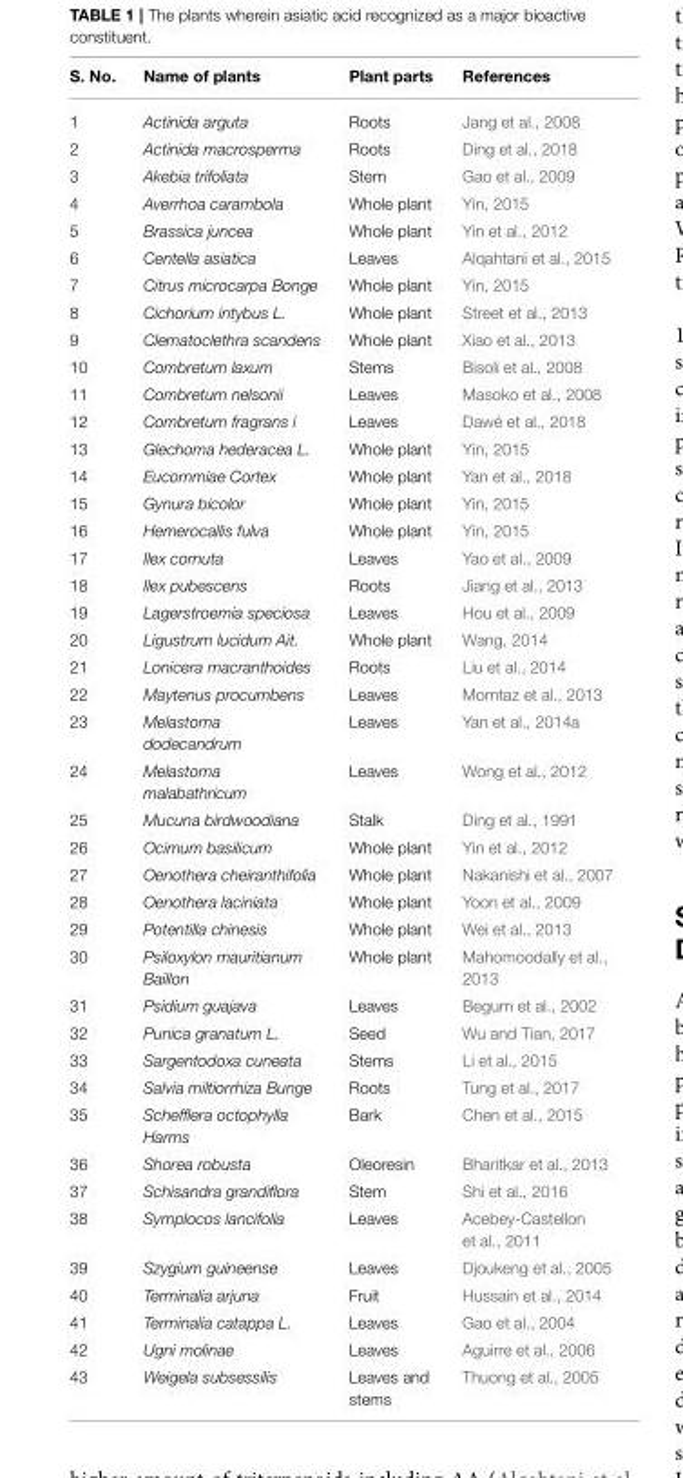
<table><thead><tr><td>S. No.</td><td>Name of plants</td><td>Plant parts</td><td>References</td></tr></thead><tbody><tr><td>1</td><td>Actinida arguta</td><td>Roots</td><td>Jang et al., 2008</td></tr><tr><td>2</td><td>Actinida macrosperma</td><td>Roots</td><td>Ding et al., 2018</td></tr><tr><td>3</td><td>Akebia trifoliata</td><td>Stem</td><td>Gao et al., 2009</td></tr><tr><td>4</td><td>Averrhoa carambola</td><td>Whole plant</td><td>Yin, 2015</td></tr><tr><td>5</td><td>Brassica juncea</td><td>Whole plant</td><td>Yin et al., 2012</td></tr><tr><td>6</td><td>Centella asiatica</td><td>Leaves</td><td>Alqahtani et al., 2015</td></tr><tr><td>7</td><td>Citrus microcarpa Bonge</td><td>Whole plant</td><td>Yin, 2015</td></tr><tr><td>8</td><td>Cichorium intybus L.</td><td>Whole plant</td><td>Street et al., 2013</td></tr><tr><td>9</td><td>Clematoclethra scandens</td><td>Whole plant</td><td>Xiao et al., 2013</td></tr><tr><td>10</td><td>Combretum laxum</td><td>Stems</td><td>Bisoli et al., 2008</td></tr><tr><td>11</td><td>Combretum nelsonii</td><td>Leaves</td><td>Masoko et al., 2008</td></tr><tr><td>12</td><td>Combretum fragrans i</td><td>Leaves</td><td>Dawé et al., 2018</td></tr><tr><td>13</td><td>Glechoma hederacea L.</td><td>Whole plant</td><td>Yin, 2015</td></tr><tr><td>14</td><td>Eucommiae Cortex</td><td>Whole plant</td><td>Yan et al., 2018</td></tr><tr><td>15</td><td>Gynura bicolor</td><td>Whole plant</td><td>Yin, 2015</td></tr><tr><td>16</td><td>Hemerocallis fulva</td><td>Whole plant</td><td>Yin, 2015</td></tr><tr><td>17</td><td>Ilex cornuta</td><td>Leaves</td><td>Yao et al., 2009</td></tr><tr><td>18</td><td>Ilex pubescens</td><td>Roots</td><td>Jiang et al., 2013</td></tr><tr><td>19</td><td>Lagerstroemia speciosa</td><td>Leaves</td><td>Hou et al., 2009</td></tr><tr><td>20</td><td>Ligustrum lucidum Ait.</td><td>Whole plant</td><td>Wang, 2014</td></tr><tr><td>21</td><td>Lonicera macranthoides</td><td>Roots</td><td>Liu et al., 2014</td></tr><tr><td>22</td><td>Maytenus procumbens</td><td>Leaves</td><td>Momtaz et al., 2013</td></tr><tr><td>23</td><td>Melastoma dodecandrum</td><td>Leaves</td><td>Yan et al., 2014a</td></tr><tr><td>24</td><td>Melastoma malabathricum</td><td>Leaves</td><td>Wong et al., 2012</td></tr><tr><td>25</td><td>Mucuna birdwoodiana</td><td>Stalk</td><td>Ding et al., 1991</td></tr><tr><td>26</td><td>Ocimum basilicum</td><td>Whole plant</td><td>Yin et al., 2012</td></tr><tr><td>27</td><td>Oenothera cheiranthifolia</td><td>Whole plant</td><td>Nakanishi et al., 2007</td></tr><tr><td>28</td><td>Oenothera laciniata</td><td>Whole plant</td><td>Yoon et al., 2009</td></tr><tr><td>29</td><td>Potentilla chinesis</td><td>Whole plant</td><td>Wei et al., 2013</td></tr><tr><td>30</td><td>Psiloxylon mauritianum Baillon</td><td>Whole plant</td><td>Mahomoodally et al., 2013</td></tr><tr><td>31</td><td>Psidium guajava</td><td>Leaves</td><td>Begum et al., 2002</td></tr><tr><td>32</td><td>Punica granatum L.</td><td>Seed</td><td>Wu and Tian, 2017</td></tr><tr><td>33</td><td>Sargentodoxa cuneata</td><td>Stems</td><td>Li et al., 2015</td></tr><tr><td>34</td><td>Salvia miltiorrhiza Bunge</td><td>Roots</td><td>Tung et al., 2017</td></tr><tr><td>35</td><td>Schefflera octophylla Harms</td><td>Bark</td><td>Chen et al., 2015</td></tr><tr><td>36</td><td>Shorea robusta</td><td>Oleoresin</td><td>Bharitkar et al., 2013</td></tr><tr><td>37</td><td>Schisandra grandiflora</td><td>Stem</td><td>Shi et al., 2016</td></tr><tr><td>38</td><td>Symplocos lancifolia</td><td>Leaves</td><td>Acebey-Castellon et al., 2011</td></tr><tr><td>39</td><td>Szygium guineense</td><td>Leaves</td><td>Djoukeng et al., 2005</td></tr><tr><td>40</td><td>Terminalia arjuna</td><td>Fruit</td><td>Hussain et al., 2014</td></tr><tr><td>41</td><td>Terminalia catappa L.</td><td>Leaves</td><td>Gao et al., 2004</td></tr><tr><td>42</td><td>Ugni molinae</td><td>Leaves</td><td>Aguirre et al., 2006</td></tr><tr><td>43</td><td>Weigela subsessilis</td><td>Leaves and stems</td><td>Thuong et al., 2005</td></tr></tbody></table>